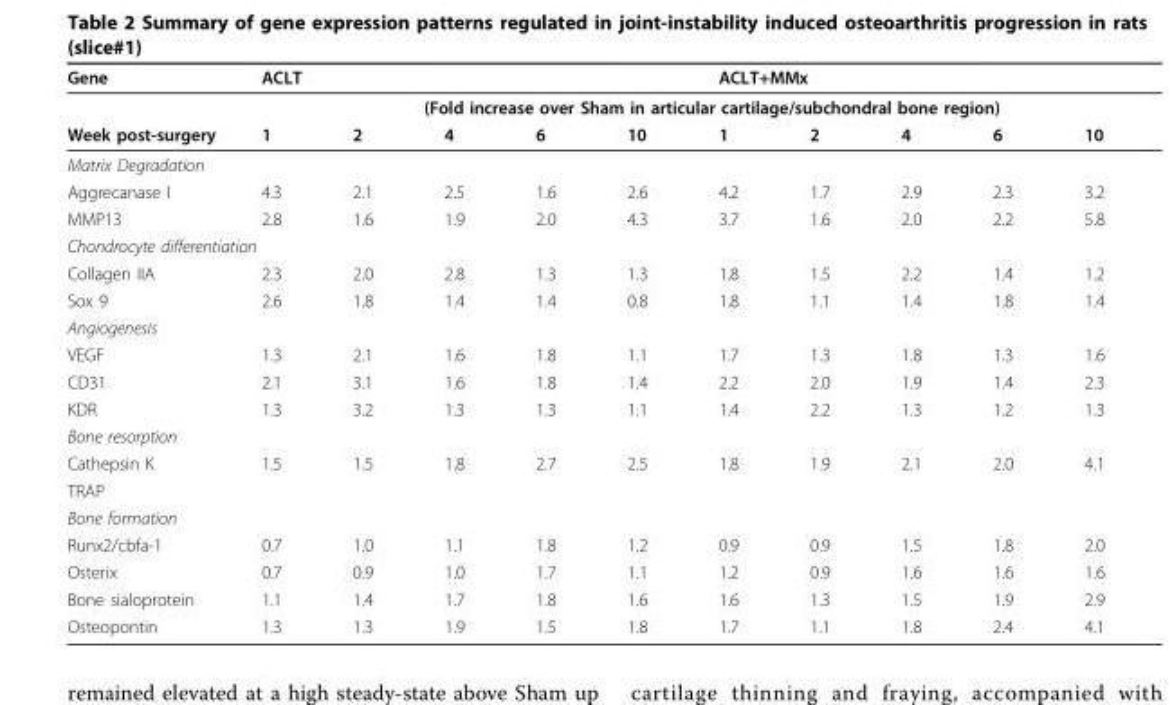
<table><thead><tr><td rowspan="3">Gene Week post-surgery</td><td colspan="5">ACLT</td><td colspan="5">ACLT+MMx</td></tr><tr><td colspan="10">(Fold increase over Sham in articular cartilage/subchondral bone region)</td></tr><tr><td>1</td><td>2</td><td>4</td><td>6</td><td>10</td><td>1</td><td>2</td><td>4</td><td>6</td><td>10</td></tr></thead><tbody><tr><td colspan="11">Matrix Degradation</td></tr><tr><td>Aggrecanase I</td><td>4.3</td><td>2.1</td><td>2.5</td><td>1.6</td><td>2.6</td><td>4.2</td><td>1.7</td><td>2.9</td><td>2.3</td><td>3.2</td></tr><tr><td>MMP13</td><td>2.8</td><td>1.6</td><td>1.9</td><td>2.0</td><td>4.3</td><td>3.7</td><td>1.6</td><td>2.0</td><td>2.2</td><td>5.8</td></tr><tr><td colspan="11">Chondrocyte differentiation</td></tr><tr><td>Collagen IIA</td><td>2.3</td><td>2.0</td><td>2.8</td><td>1.3</td><td>1.3</td><td>1.8</td><td>1.5</td><td>2.2</td><td>1.4</td><td>1.2</td></tr><tr><td>Sox 9</td><td>2.6</td><td>1.8</td><td>1.4</td><td>1.4</td><td>0.8</td><td>1.8</td><td>1.1</td><td>1.4</td><td>1.8</td><td>1.4</td></tr><tr><td colspan="11">Angiogenesis</td></tr><tr><td>VEGF</td><td>1.3</td><td>2.1</td><td>1.6</td><td>1.8</td><td>1.1</td><td>1.7</td><td>1.3</td><td>1.8</td><td>1.3</td><td>1.6</td></tr><tr><td>CD31</td><td>2.1</td><td>3.1</td><td>1.6</td><td>1.8</td><td>1.4</td><td>2.2</td><td>2.0</td><td>1.9</td><td>1.4</td><td>2.3</td></tr><tr><td>KDR</td><td>1.3</td><td>3.2</td><td>1.3</td><td>1.3</td><td>1.1</td><td>1.4</td><td>2.2</td><td>1.3</td><td>1.2</td><td>1.3</td></tr><tr><td colspan="11">Bone resorption</td></tr><tr><td>Cathepsin K</td><td>1.5</td><td>1.5</td><td>1.8</td><td>2.7</td><td>2.5</td><td>1.8</td><td>1.9</td><td>2.1</td><td>2.0</td><td>4.1</td></tr><tr><td colspan="11">TRAP</td></tr><tr><td colspan="11">Bone formation</td></tr><tr><td>Runx2/cbfa-1</td><td>0.7</td><td>1.0</td><td>1.1</td><td>1.8</td><td>1.2</td><td>0.9</td><td>0.9</td><td>1.5</td><td>1.8</td><td>2.0</td></tr><tr><td>Osterix</td><td>0.7</td><td>0.9</td><td>1.0</td><td>1.7</td><td>1.1</td><td>1.2</td><td>0.9</td><td>1.6</td><td>1.6</td><td>1.6</td></tr><tr><td>Bone sialoprotein</td><td>1.1</td><td>1.4</td><td>1.7</td><td>1.8</td><td>1.6</td><td>1.6</td><td>1.3</td><td>1.5</td><td>1.9</td><td>2.9</td></tr><tr><td>Osteopontin</td><td>1.3</td><td>1.3</td><td>1.9</td><td>1.5</td><td>1.8</td><td>1.7</td><td>1.1</td><td>1.8</td><td>2.4</td><td>4.1</td></tr></tbody></table>